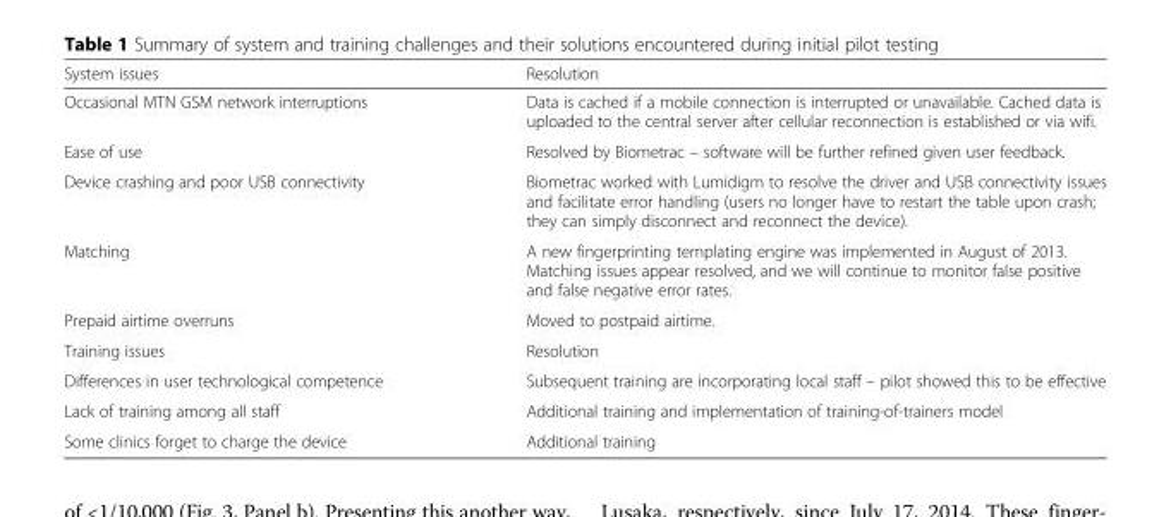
<table><thead><tr><td>System issues</td><td>Resolution</td></tr></thead><tbody><tr><td>Occasional MTN GSM network interruptions</td><td>Data is cached if a mobile connection is interrupted or unavailable. Cached data is uploaded to the central server after cellular reconnection is established or via wifi.</td></tr><tr><td>Ease of use</td><td>Resolved by Biometrac – software will be further refined given user feedback.</td></tr><tr><td>Device crashing and poor USB connectivity</td><td>Biometrac worked with Lumidigm to resolve the driver and USB connectivity issues and facilitate error handling (users no longer have to restart the table upon crash; they can simply disconnect and reconnect the device).</td></tr><tr><td>Matching</td><td>A new fingerprinting templating engine was implemented in August of 2013. Matching issues appear resolved, and we will continue to monitor false positive and false negative error rates.</td></tr><tr><td>Prepaid airtime overruns</td><td>Moved to postpaid airtime.</td></tr><tr><td>Training issues</td><td>Resolution</td></tr><tr><td>Differences in user technological competence</td><td>Subsequent training are incorporating local staff – pilot showed this to be effective</td></tr><tr><td>Lack of training among all staff</td><td>Additional training and implementation of training-of-trainers model</td></tr><tr><td>Some clinics forget to charge the device</td><td>Additional training</td></tr></tbody></table>